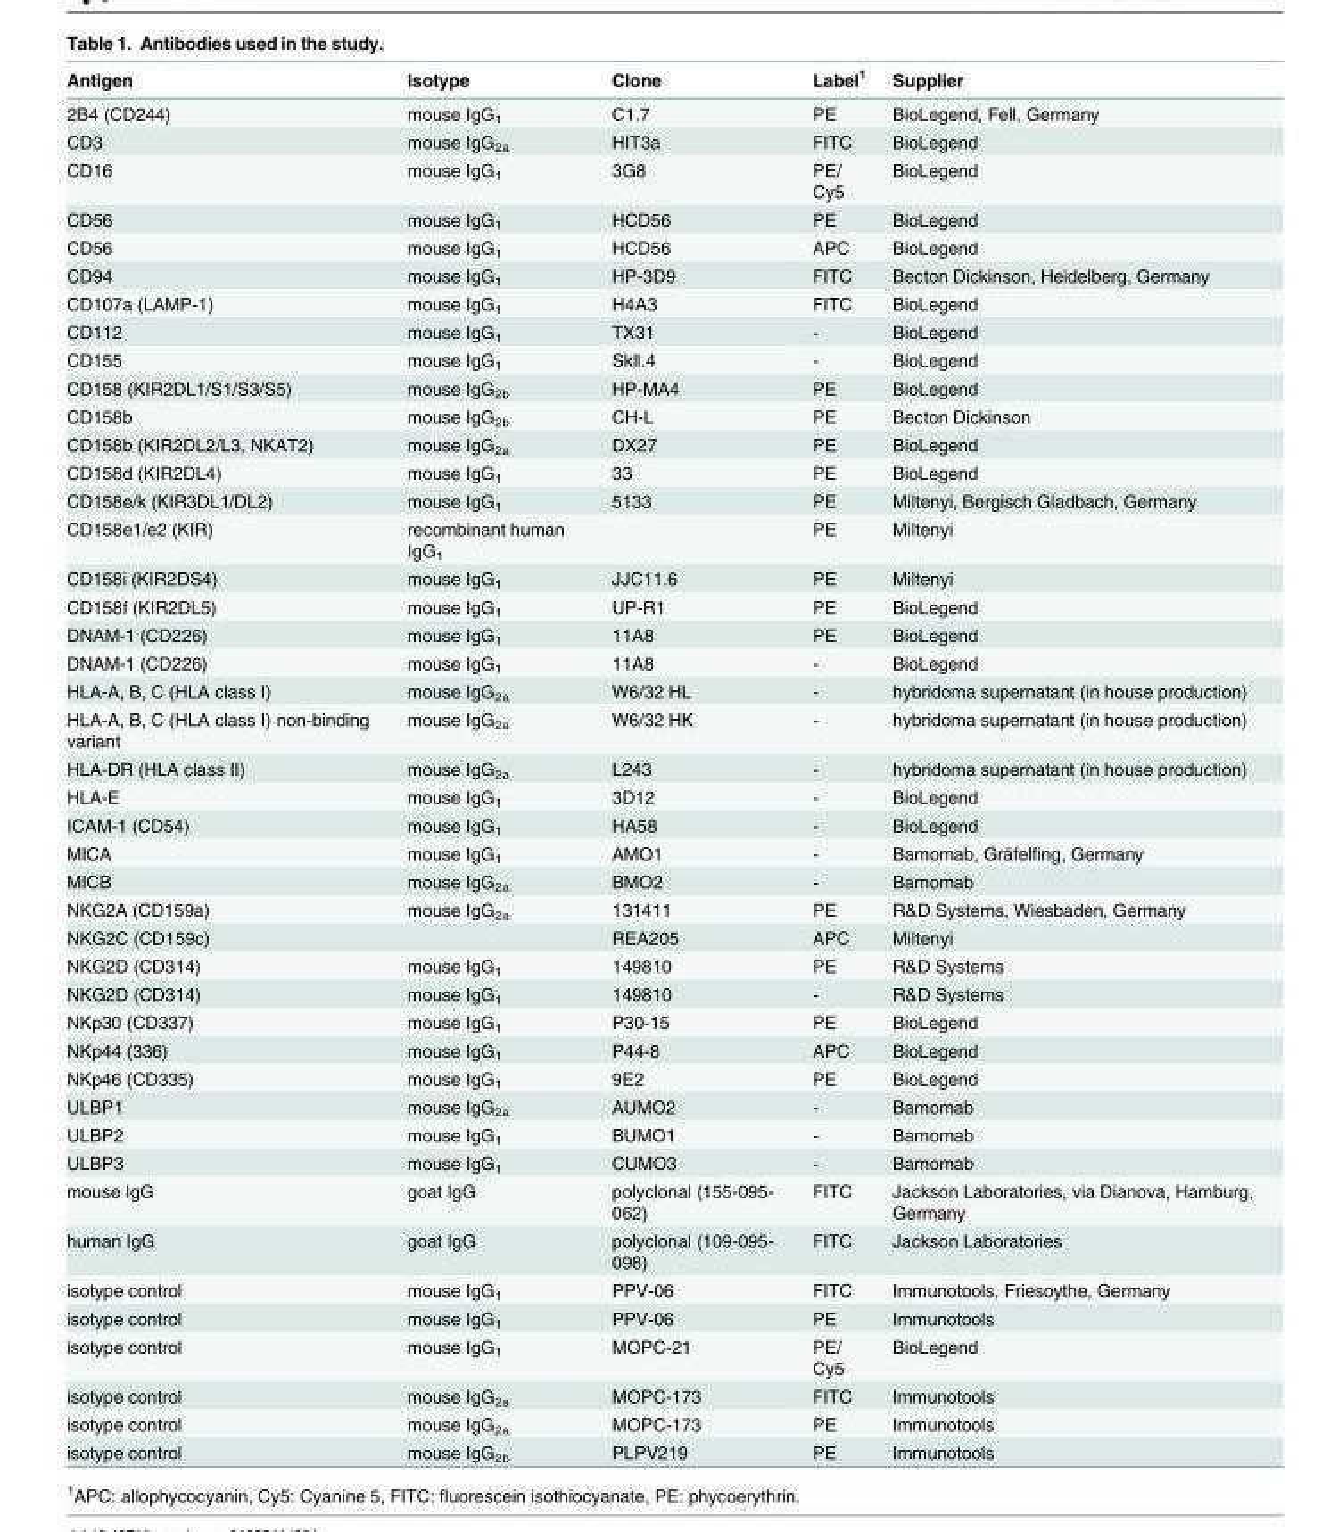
<table><thead><tr><td>Antigen</td><td>Isotype</td><td>Clone</td><td>Label<sup>1</sup></td><td>Supplier</td></tr></thead><tbody><tr><td>2B4 (CD244)</td><td>mouse IgG<sub>1</sub></td><td>C1.7</td><td>PE</td><td>BioLegend, Fell, Germany</td></tr><tr><td>CD3</td><td>mouse IgG<sub>2a</sub></td><td>HIT3a</td><td>FITC</td><td>BioLegend</td></tr><tr><td>CD16</td><td>mouse IgG<sub>1</sub></td><td>3G8</td><td>PE/ Cy5</td><td>BioLegend</td></tr><tr><td>CD56</td><td>mouse IgG<sub>1</sub></td><td>HCD56</td><td>PE</td><td>BioLegend</td></tr><tr><td>CD56</td><td>mouse IgG<sub>1</sub></td><td>HCD56</td><td>APC</td><td>BioLegend</td></tr><tr><td>CD94</td><td>mouse IgG<sub>1</sub></td><td>HP-3D9</td><td>FITC</td><td>Becton Dickinson, Heidelberg, Germany</td></tr><tr><td>CD107a (LAMP-1)</td><td>mouse IgG<sub>1</sub></td><td>H4A3</td><td>FITC</td><td>BioLegend</td></tr><tr><td>CD112</td><td>mouse IgG<sub>1</sub></td><td>TX31</td><td>-</td><td>BioLegend</td></tr><tr><td>CD155</td><td>mouse IgG<sub>1</sub></td><td>Skll.4</td><td>-</td><td>BioLegend</td></tr><tr><td>CD158 (KIR2DL1/S1/S3/S5)</td><td>mouse IgG<sub>2b</sub></td><td>HP-MA4</td><td>PE</td><td>BioLegend</td></tr><tr><td>CD158b</td><td>mouse IgG<sub>2b</sub></td><td>CH-L</td><td>PE</td><td>Becton Dickinson</td></tr><tr><td>CD158b (KIR2DL2/L3, NKAT2)</td><td>mouse IgG<sub>2a</sub></td><td>DX27</td><td>PE</td><td>BioLegend</td></tr><tr><td>CD158d (KIR2DL4)</td><td>mouse IgG<sub>1</sub></td><td>33</td><td>PE</td><td>BioLegend</td></tr><tr><td>CD158e/k (KIR3DL1/DL2)</td><td>mouse IgG<sub>1</sub></td><td>5133</td><td>PE</td><td>Miltenyi, Bergisch Gladbach, Germany</td></tr><tr><td>CD158e1/e2 (KIR)</td><td>recombinant human IgG<sub>1</sub></td><td></td><td>PE</td><td>Miltenyi</td></tr><tr><td>CD158i (KIR2DS4)</td><td>mouse IgG<sub>1</sub></td><td>JJC11.6</td><td>PE</td><td>Miltenyi</td></tr><tr><td>CD158f (KIR2DL5)</td><td>mouse IgG<sub>1</sub></td><td>UP-R1</td><td>PE</td><td>BioLegend</td></tr><tr><td>DNAM-1 (CD226)</td><td>mouse IgG<sub>1</sub></td><td>11A8</td><td>PE</td><td>BioLegend</td></tr><tr><td>DNAM-1 (CD226)</td><td>mouse IgG<sub>1</sub></td><td>11A8</td><td>-</td><td>BioLegend</td></tr><tr><td>HLA-A, B, C (HLA class I)</td><td>mouse IgG<sub>2a</sub></td><td>W6/32 HL</td><td>-</td><td>hybridoma supernatant (in house production)</td></tr><tr><td>HLA-A, B, C (HLA class I) non-binding variant</td><td>mouse IgG<sub>2a</sub></td><td>W6/32 HK</td><td>-</td><td>hybridoma supernatant (in house production)</td></tr><tr><td>HLA-DR (HLA class II)</td><td>mouse IgG<sub>2a</sub></td><td>L243</td><td>-</td><td>hybridoma supernatant (in house production)</td></tr><tr><td>HLA-E</td><td>mouse IgG<sub>1</sub></td><td>3D12</td><td>-</td><td>BioLegend</td></tr><tr><td>ICAM-1 (CD54)</td><td>mouse IgG<sub>1</sub></td><td>HA58</td><td>-</td><td>BioLegend</td></tr><tr><td>MICA</td><td>mouse IgG<sub>1</sub></td><td>AMO1</td><td>-</td><td>Bamomab, Gräfelfing, Germany</td></tr><tr><td>MICB</td><td>mouse IgG<sub>2a</sub></td><td>BMO2</td><td>-</td><td>Bamomab</td></tr><tr><td>NKG2A (CD159a)</td><td>mouse IgG<sub>2a</sub></td><td>131411</td><td>PE</td><td>R&amp;D Systems, Wiesbaden, Germany</td></tr><tr><td>NKG2C (CD159c)</td><td></td><td>REA205</td><td>APC</td><td>Miltenyi</td></tr><tr><td>NKG2D (CD314)</td><td>mouse IgG<sub>1</sub></td><td>149810</td><td>PE</td><td>R&amp;D Systems</td></tr><tr><td>NKG2D (CD314)</td><td>mouse IgG<sub>1</sub></td><td>149810</td><td>-</td><td>R&amp;D Systems</td></tr><tr><td>NKp30 (CD337)</td><td>mouse IgG<sub>1</sub></td><td>P30-15</td><td>PE</td><td>BioLegend</td></tr><tr><td>NKp44 (336)</td><td>mouse IgG<sub>1</sub></td><td>P44-8</td><td>APC</td><td>BioLegend</td></tr><tr><td>NKp46 (CD335)</td><td>mouse IgG<sub>1</sub></td><td>9E2</td><td>PE</td><td>BioLegend</td></tr><tr><td>ULBP1</td><td>mouse IgG<sub>2a</sub></td><td>AUMO2</td><td>-</td><td>Bamomab</td></tr><tr><td>ULBP2</td><td>mouse IgG<sub>1</sub></td><td>BUMO1</td><td>-</td><td>Bamomab</td></tr><tr><td>ULBP3</td><td>mouse IgG<sub>1</sub></td><td>CUMO3</td><td>-</td><td>Bamomab</td></tr><tr><td>mouse IgG</td><td>goat IgG</td><td>polyclonal (155-095- 062)</td><td>FITC</td><td>Jackson Laboratories, via Dianova, Hamburg, Germany</td></tr><tr><td>human IgG</td><td>goat IgG</td><td>polyclonal (109-095- 098)</td><td>FITC</td><td>Jackson Laboratories</td></tr><tr><td>isotype control</td><td>mouse IgG<sub>1</sub></td><td>PPV-06</td><td>FITC</td><td>Immunotools, Friesoythe, Germany</td></tr><tr><td>isotype control</td><td>mouse IgG<sub>1</sub></td><td>PPV-06</td><td>PE</td><td>Immunotools</td></tr><tr><td>isotype control</td><td>mouse IgG<sub>1</sub></td><td>MOPC-21</td><td>PE/ Cy5</td><td>BioLegend</td></tr><tr><td>isotype control</td><td>mouse IgG<sub>2a</sub></td><td>MOPC-173</td><td>FITC</td><td>Immunotools</td></tr><tr><td>isotype control</td><td>mouse IgG<sub>2a</sub></td><td>MOPC-173</td><td>PE</td><td>Immunotools</td></tr><tr><td>isotype control</td><td>mouse IgG<sub>2b</sub></td><td>PLPV219</td><td>PE</td><td>Immunotools</td></tr></tbody></table>